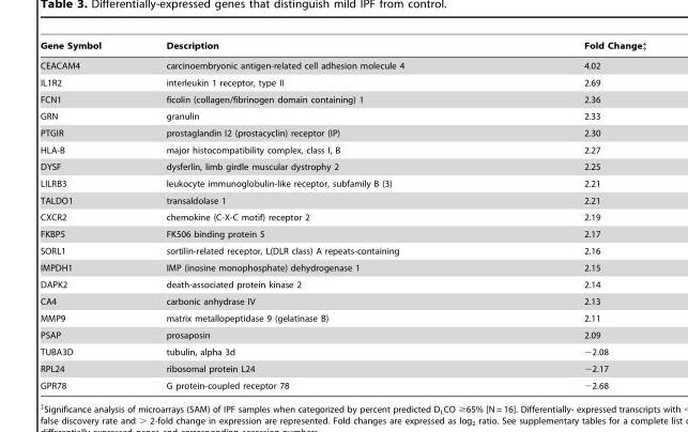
<table><thead><tr><td>Gene Symbol</td><td>Description</td><td>Fold Change‡</td></tr></thead><tbody><tr><td>CEACAM4</td><td>carcinoembryonic antigen-related cell adhesion molecule 4</td><td>4.02</td></tr><tr><td>IL1R2</td><td>interleukin 1 receptor, type II</td><td>2.69</td></tr><tr><td>FCN1</td><td>ficolin (collagen/fibrinogen domain containing) 1</td><td>2.36</td></tr><tr><td>GRN</td><td>granulin</td><td>2.33</td></tr><tr><td>PTGIR</td><td>prostaglandin I2 (prostacyclin) receptor (IP)</td><td>2.30</td></tr><tr><td>HLA-B</td><td>major histocompatibility complex, class I, B</td><td>2.27</td></tr><tr><td>DYSF</td><td>dysferlin, limb girdle muscular dystrophy 2</td><td>2.25</td></tr><tr><td>LILRB3</td><td>leukocyte immunoglobulin-like receptor, subfamily B (3)</td><td>2.21</td></tr><tr><td>TALDO1</td><td>transaldolase 1</td><td>2.21</td></tr><tr><td>CXCR2</td><td>chemokine (C-X-C motif) receptor 2</td><td>2.19</td></tr><tr><td>FKBP5</td><td>FK506 binding protein 5</td><td>2.17</td></tr><tr><td>SORL1</td><td>sortilin-related receptor, L(DLR class) A repeats-containing</td><td>2.16</td></tr><tr><td>IMPDH1</td><td>IMP (inosine monophosphate) dehydrogenase 1</td><td>2.15</td></tr><tr><td>DAPK2</td><td>death-associated protein kinase 2</td><td>2.14</td></tr><tr><td>CA4</td><td>carbonic anhydrase IV</td><td>2.13</td></tr><tr><td>MMP9</td><td>matrix metallopeptidase 9 (gelatinase B)</td><td>2.11</td></tr><tr><td>PSAP</td><td>prosaposin</td><td>2.09</td></tr><tr><td>TUBA3D</td><td>tubulin, alpha 3d</td><td>−2.08</td></tr><tr><td>RPL24</td><td>ribosomal protein L24</td><td>−2.17</td></tr><tr><td>GPR78</td><td>G protein-coupled receptor 78</td><td>−2.68</td></tr></tbody></table>